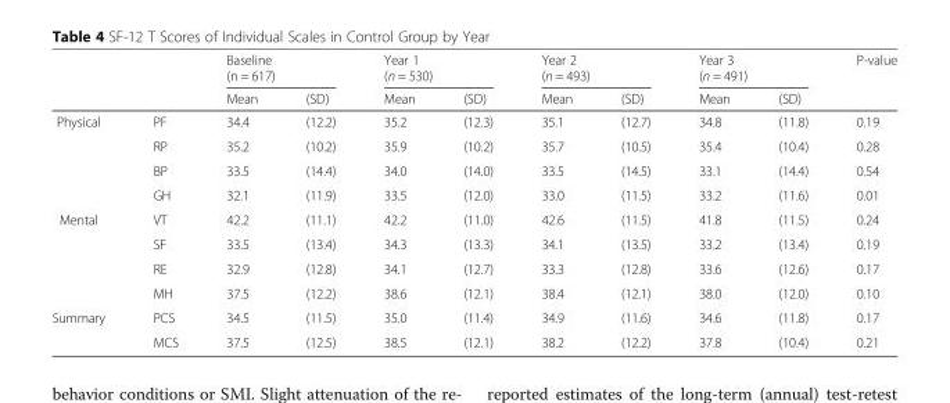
<table><thead><tr><td rowspan="2"></td><td rowspan="2"></td><td colspan="2">Baseline (n = 617)</td><td colspan="2">Year 1 (n = 530)</td><td colspan="2">Year 2 (n = 493)</td><td colspan="2">Year 3 (n = 491)</td><td rowspan="2">P-value</td></tr><tr><td>Mean</td><td>(SD)</td><td>Mean</td><td>(SD)</td><td>Mean</td><td>(SD)</td><td>Mean</td><td>(SD)</td></tr></thead><tbody><tr><td rowspan="4">Physical</td><td>PF</td><td>34.4</td><td>(12.2)</td><td>35.2</td><td>(12.3)</td><td>35.1</td><td>(12.7)</td><td>34.8</td><td>(11.8)</td><td>0.19</td></tr><tr><td>RP</td><td>35.2</td><td>(10.2)</td><td>35.9</td><td>(10.2)</td><td>35.7</td><td>(10.5)</td><td>35.4</td><td>(10.4)</td><td>0.28</td></tr><tr><td>BP</td><td>33.5</td><td>(14.4)</td><td>34.0</td><td>(14.0)</td><td>33.5</td><td>(14.5)</td><td>33.1</td><td>(14.4)</td><td>0.54</td></tr><tr><td>GH</td><td>32.1</td><td>(11.9)</td><td>33.5</td><td>(12.0)</td><td>33.0</td><td>(11.5)</td><td>33.2</td><td>(11.6)</td><td>0.01</td></tr><tr><td rowspan="4">Mental</td><td>VT</td><td>42.2</td><td>(11.1)</td><td>42.2</td><td>(11.0)</td><td>42.6</td><td>(11.5)</td><td>41.8</td><td>(11.5)</td><td>0.24</td></tr><tr><td>SF</td><td>33.5</td><td>(13.4)</td><td>34.3</td><td>(13.3)</td><td>34.1</td><td>(13.5)</td><td>33.2</td><td>(13.4)</td><td>0.19</td></tr><tr><td>RE</td><td>32.9</td><td>(12.8)</td><td>34.1</td><td>(12.7)</td><td>33.3</td><td>(12.8)</td><td>33.6</td><td>(12.6)</td><td>0.17</td></tr><tr><td>MH</td><td>37.5</td><td>(12.2)</td><td>38.6</td><td>(12.1)</td><td>38.4</td><td>(12.1)</td><td>38.0</td><td>(12.0)</td><td>0.10</td></tr><tr><td rowspan="2">Summary</td><td>PCS</td><td>34.5</td><td>(11.5)</td><td>35.0</td><td>(11.4)</td><td>34.9</td><td>(11.6)</td><td>34.6</td><td>(11.8)</td><td>0.17</td></tr><tr><td>MCS</td><td>37.5</td><td>(12.5)</td><td>38.5</td><td>(12.1)</td><td>38.2</td><td>(12.2)</td><td>37.8</td><td>(10.4)</td><td>0.21</td></tr></tbody></table>